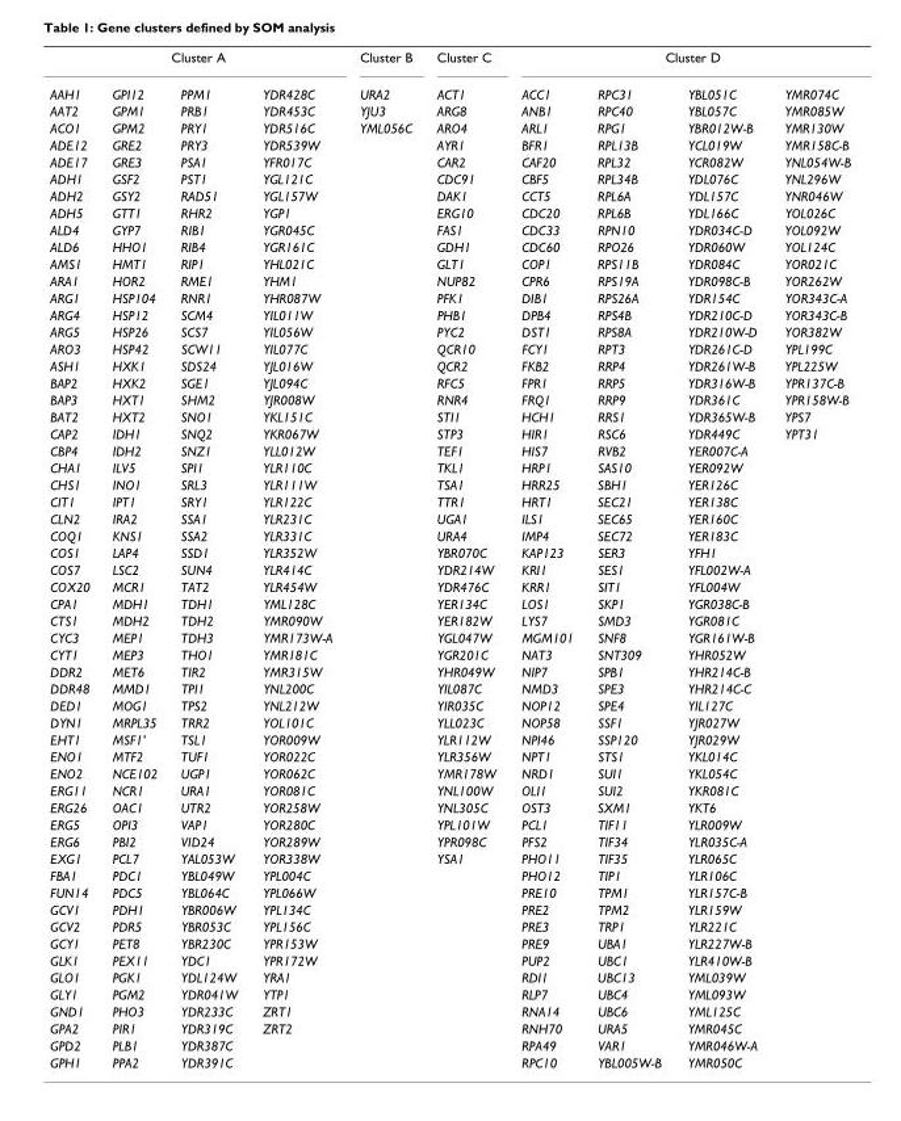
<table><tbody><tr><td colspan="4">Cluster A</td><td>Cluster B</td><td>Cluster C</td><td colspan="4">Cluster D</td></tr><tr><td>AAH1</td><td>GPI12</td><td>PPM1</td><td>YDR428C</td><td>URA2</td><td>ACT1</td><td>ACC1</td><td>RPC31</td><td>YBL051C</td><td>YMR074C</td></tr><tr><td>AAT2</td><td>GPM1</td><td>PRB1</td><td>YDR453C</td><td>YJU3</td><td>ARG8</td><td>ANB1</td><td>RPC40</td><td>YBL057C</td><td>YMR085W</td></tr><tr><td>ACO1</td><td>GPM2</td><td>PRY1</td><td>YDR516C</td><td>YML056C</td><td>ARO4</td><td>ARL1</td><td>RPG1</td><td>YBR012W-B</td><td>YMR130W</td></tr><tr><td>ADE12</td><td>GRE2</td><td>PRY3</td><td>YDR539W</td><td></td><td>AYR1</td><td>BFR1</td><td>RPL13B</td><td>YCL019W</td><td>YMR158C-B</td></tr><tr><td>ADE17</td><td>GRE3</td><td>PSA1</td><td>YFR017C</td><td></td><td>CAR2</td><td>CAF20</td><td>RPL32</td><td>YCR082W</td><td>YNL054W-B</td></tr><tr><td>ADH1</td><td>GSF2</td><td>PST1</td><td>YGL121C</td><td></td><td>CDC91</td><td>CBF5</td><td>RPL34B</td><td>YDL076C</td><td>YNL296W</td></tr><tr><td>ADH2</td><td>GSY2</td><td>RAD51</td><td>YGL157W</td><td></td><td>DAK1</td><td>CCT5</td><td>RPL6A</td><td>YDL157C</td><td>YNR046W</td></tr><tr><td>ADH5</td><td>GTT1</td><td>RHR2</td><td>YGP1</td><td></td><td>ERG10</td><td>CDC20</td><td>RPL6B</td><td>YDL166C</td><td>YOL026C</td></tr><tr><td>ALD4</td><td>GYP7</td><td>RIB1</td><td>YGR045C</td><td></td><td>FAS1</td><td>CDC33</td><td>RPN10</td><td>YDR034C-D</td><td>YOL092W</td></tr><tr><td>ALD6</td><td>HHO1</td><td>RIB4</td><td>YGR161C</td><td></td><td>GDH1</td><td>CDC60</td><td>RPO26</td><td>YDR060W</td><td>YOL124C</td></tr><tr><td>AMS1</td><td>HMT1</td><td>RIP1</td><td>YHL021C</td><td></td><td>GLT1</td><td>COP1</td><td>RPS11B</td><td>YDR084C</td><td>YOR021C</td></tr><tr><td>ARA1</td><td>HOR2</td><td>RME1</td><td>YHM1</td><td></td><td>NUP82</td><td>CPR6</td><td>RPS19A</td><td>YDR098C-B</td><td>YOR262W</td></tr><tr><td>ARG1</td><td>HSP104</td><td>RNR1</td><td>YHR087W</td><td></td><td>PFK1</td><td>DIB1</td><td>RPS26A</td><td>YDR154C</td><td>YOR343C-A</td></tr><tr><td>ARG4</td><td>HSP12</td><td>SCM4</td><td>YIL011W</td><td></td><td>PHB1</td><td>DPB4</td><td>RPS4B</td><td>YDR210C-D</td><td>YOR343C-B</td></tr><tr><td>ARG5</td><td>HSP26</td><td>SCS7</td><td>YIL056W</td><td></td><td>PYC2</td><td>DST1</td><td>RPS8A</td><td>YDR210W-D</td><td>YOR382W</td></tr><tr><td>ARO3</td><td>HSP42</td><td>SCW11</td><td>YIL077C</td><td></td><td>QCR10</td><td>FCY1</td><td>RPT3</td><td>YDR261C-D</td><td>YPL199C</td></tr><tr><td>ASH1</td><td>HXK1</td><td>SDS24</td><td>YJL016W</td><td></td><td>QCR2</td><td>FKB2</td><td>RRP4</td><td>YDR261W-B</td><td>YPL225W</td></tr><tr><td>BAP2</td><td>HXK2</td><td>SGE1</td><td>YJL094C</td><td></td><td>RFC5</td><td>FPR1</td><td>RRP5</td><td>YDR316W-B</td><td>YPR137C-B</td></tr><tr><td>BAP3</td><td>HXT1</td><td>SHM2</td><td>YJR008W</td><td></td><td>RNR4</td><td>FRQ1</td><td>RRP9</td><td>YDR361C</td><td>YPR158W-B</td></tr><tr><td>BAT2</td><td>HXT2</td><td>SNO1</td><td>YKL151C</td><td></td><td>STI1</td><td>HCH1</td><td>RRS1</td><td>YDR365W-B</td><td>YPS7</td></tr><tr><td>CAP2</td><td>IDH1</td><td>SNQ2</td><td>YKR067W</td><td></td><td>STP3</td><td>HIR1</td><td>RSC6</td><td>YDR449C</td><td>YPT31</td></tr><tr><td>CBP4</td><td>IDH2</td><td>SNZ1</td><td>YLL012W</td><td></td><td>TEF1</td><td>HIS7</td><td>RVB2</td><td>YER007C-A</td><td></td></tr><tr><td>CHA1</td><td>ILV5</td><td>SPI1</td><td>YLR110C</td><td></td><td>TKL1</td><td>HRP1</td><td>SAS10</td><td>YER092W</td><td></td></tr><tr><td>CHS1</td><td>INO1</td><td>SRL3</td><td>YLR111W</td><td></td><td>TSA1</td><td>HRR25</td><td>SBH1</td><td>YER126C</td><td></td></tr><tr><td>CIT1</td><td>IPT1</td><td>SRY1</td><td>YLR122C</td><td></td><td>TTR1</td><td>HRT1</td><td>SEC21</td><td>YER138C</td><td></td></tr><tr><td>CLN2</td><td>IRA2</td><td>SSA1</td><td>YLR231C</td><td></td><td>UGA1</td><td>ILS1</td><td>SEC65</td><td>YER160C</td><td></td></tr><tr><td>COQ1</td><td>KNS1</td><td>SSA2</td><td>YLR331C</td><td></td><td>URA4</td><td>IMP4</td><td>SEC72</td><td>YER183C</td><td></td></tr><tr><td>COS1</td><td>LAP4</td><td>SSD1</td><td>YLR352W</td><td></td><td>YBR070C</td><td>KAP123</td><td>SER3</td><td>YFH1</td><td></td></tr><tr><td>COS7</td><td>LSC2</td><td>SUN4</td><td>YLR414C</td><td></td><td>YDR214W</td><td>KRI1</td><td>SES1</td><td>YFL002W-A</td><td></td></tr><tr><td>COX20</td><td>MCR1</td><td>TAT2</td><td>YLR454W</td><td></td><td>YDR476C</td><td>KRR1</td><td>SIT1</td><td>YFL004W</td><td></td></tr><tr><td>CPA1</td><td>MDH1</td><td>TDH1</td><td>YML128C</td><td></td><td>YER134C</td><td>LOS1</td><td>SKP1</td><td>YGR038C-B</td><td></td></tr><tr><td>CTS1</td><td>MDH2</td><td>TDH2</td><td>YMR090W</td><td></td><td>YER182W</td><td>LYS7</td><td>SMD3</td><td>YGR081C</td><td></td></tr><tr><td>CYC3</td><td>MEP1</td><td>TDH3</td><td>YMR173W-A</td><td></td><td>YGL047W</td><td>MGM101</td><td>SNF8</td><td>YGR161W-B</td><td></td></tr><tr><td>CYT1</td><td>MEP3</td><td>THO1</td><td>YMR181C</td><td></td><td>YGR201C</td><td>NAT3</td><td>SNT309</td><td>YHR052W</td><td></td></tr><tr><td>DDR2</td><td>MET6</td><td>TIR2</td><td>YMR315W</td><td></td><td>YHR049W</td><td>NIP7</td><td>SPB1</td><td>YHR214C-B</td><td></td></tr><tr><td>DDR48</td><td>MMD1</td><td>TPI1</td><td>YNL200C</td><td></td><td>YIL087C</td><td>NMD3</td><td>SPE3</td><td>YHR214C-C</td><td></td></tr><tr><td>DED1</td><td>MOG1</td><td>TPS2</td><td>YNL212W</td><td></td><td>YIR035C</td><td>NOP12</td><td>SPE4</td><td>YIL127C</td><td></td></tr><tr><td>DYN1</td><td>MRPL35</td><td>TRR2</td><td>YOL101C</td><td></td><td>YLL023C</td><td>NOP58</td><td>SSF1</td><td>YJR027W</td><td></td></tr><tr><td>EHT1</td><td>MSF1&#x27;</td><td>TSL1</td><td>YOR009W</td><td></td><td>YLR112W</td><td>NPI46</td><td>SSP120</td><td>YJR029W</td><td></td></tr><tr><td>ENO1</td><td>MTF2</td><td>TUF1</td><td>YOR022C</td><td></td><td>YLR356W</td><td>NPT1</td><td>STS1</td><td>YKL014C</td><td></td></tr><tr><td>ENO2</td><td>NCE102</td><td>UGP1</td><td>YOR062C</td><td></td><td>YMR178W</td><td>NRD1</td><td>SUI1</td><td>YKL054C</td><td></td></tr><tr><td>ERG11</td><td>NCR1</td><td>URA1</td><td>YOR081C</td><td></td><td>YNL100W</td><td>OLI1</td><td>SUI2</td><td>YKR081C</td><td></td></tr><tr><td>ERG26</td><td>OAC1</td><td>UTR2</td><td>YOR258W</td><td></td><td>YNL305C</td><td>OST3</td><td>SXM1</td><td>YKT6</td><td></td></tr><tr><td>ERG5</td><td>OPI3</td><td>VAP1</td><td>YOR280C</td><td></td><td>YPL101W</td><td>PCL1</td><td>TIF11</td><td>YLR009W</td><td></td></tr><tr><td>ERG6</td><td>PBI2</td><td>VID24</td><td>YOR289W</td><td></td><td>YPR098C</td><td>PFS2</td><td>TIF34</td><td>YLR035C-A</td><td></td></tr><tr><td>EXG1</td><td>PCL7</td><td>YAL053W</td><td>YOR338W</td><td></td><td>YSA1</td><td>PHO11</td><td>TIF35</td><td>YLR065C</td><td></td></tr><tr><td>FBA1</td><td>PDC1</td><td>YBL049W</td><td>YPL004C</td><td></td><td></td><td>PHO12</td><td>TIP1</td><td>YLR106C</td><td></td></tr><tr><td>FUN14</td><td>PDC5</td><td>YBL064C</td><td>YPL066W</td><td></td><td></td><td>PRE10</td><td>TPM1</td><td>YLR157C-B</td><td></td></tr><tr><td>GCV1</td><td>PDH1</td><td>YBR006W</td><td>YPL134C</td><td></td><td></td><td>PRE2</td><td>TPM2</td><td>YLR159W</td><td></td></tr><tr><td>GCV2</td><td>PDR5</td><td>YBR053C</td><td>YPL156C</td><td></td><td></td><td>PRE3</td><td>TRP1</td><td>YLR221C</td><td></td></tr><tr><td>GCY1</td><td>PET8</td><td>YBR230C</td><td>YPR153W</td><td></td><td></td><td>PRE9</td><td>UBA1</td><td>YLR227W-B</td><td></td></tr><tr><td>GLK1</td><td>PEX11</td><td>YDC1</td><td>YPR172W</td><td></td><td></td><td>PUP2</td><td>UBC1</td><td>YLR410W-B</td><td></td></tr><tr><td>GLO1</td><td>PGK1</td><td>YDL124W</td><td>YRA1</td><td></td><td></td><td>RDI1</td><td>UBC13</td><td>YML039W</td><td></td></tr><tr><td>GLY1</td><td>PGM2</td><td>YDR041W</td><td>YTP1</td><td></td><td></td><td>RLP7</td><td>UBC4</td><td>YML093W</td><td></td></tr><tr><td>GND1</td><td>PHO3</td><td>YDR233C</td><td>ZRT1</td><td></td><td></td><td>RNA14</td><td>UBC6</td><td>YML125C</td><td></td></tr><tr><td>GPA2</td><td>PIR1</td><td>YDR319C</td><td>ZRT2</td><td></td><td></td><td>RNH70</td><td>URA5</td><td>YMR045C</td><td></td></tr><tr><td>GPD2</td><td>PLB1</td><td>YDR387C</td><td></td><td></td><td></td><td>RPA49</td><td>VAR1</td><td>YMR046W-A</td><td></td></tr><tr><td>GPH1</td><td>PPA2</td><td>YDR391C</td><td></td><td></td><td></td><td>RPC10</td><td>YBL005W-B</td><td>YMR050C</td><td></td></tr></tbody></table>